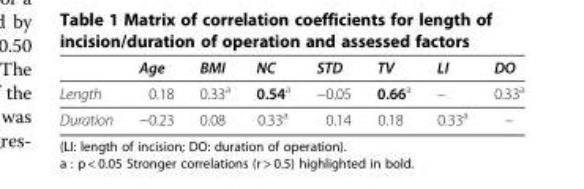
<table><thead><tr><td></td><td>Age</td><td>BMI</td><td>NC</td><td>STD</td><td>TV</td><td>LI</td><td>DO</td></tr></thead><tbody><tr><td>Length</td><td>0.18</td><td>0.33<sup>a</sup></td><td>0.54<sup>a</sup></td><td>−0.05</td><td>0.66<sup>a</sup></td><td>–</td><td>0.33<sup>a</sup></td></tr><tr><td>Duration</td><td>−0.23</td><td>0.08</td><td>0.33<sup>a</sup></td><td>0.14</td><td>0.18</td><td>0.33<sup>a</sup></td><td>–</td></tr></tbody></table>